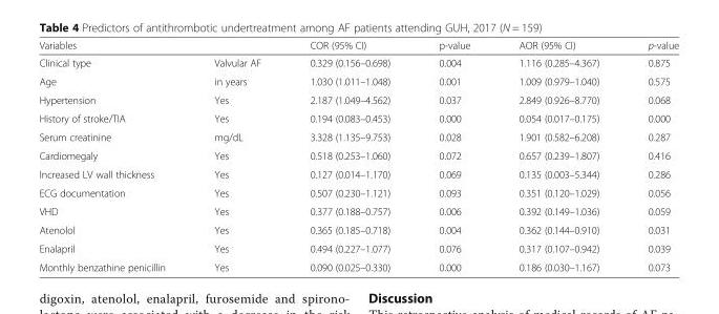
<table><thead><tr><td>Variables</td><td></td><td>COR (95% CI)</td><td>p-value</td><td>AOR (95% CI)</td><td>p-value</td></tr></thead><tbody><tr><td>Clinical type</td><td>Valvular AF</td><td>0.329 (0.156–0.698)</td><td>0.004</td><td>1.116 (0.285–4.367)</td><td>0.875</td></tr><tr><td>Age</td><td>in years</td><td>1.030 (1.011–1.048)</td><td>0.001</td><td>1.009 (0.979–1.040)</td><td>0.575</td></tr><tr><td>Hypertension</td><td>Yes</td><td>2.187 (1.049–4.562)</td><td>0.037</td><td>2.849 (0.926–8.770)</td><td>0.068</td></tr><tr><td>History of stroke/TIA</td><td>Yes</td><td>0.194 (0.083–0.453)</td><td>0.000</td><td>0.054 (0.017–0.175)</td><td>0.000</td></tr><tr><td>Serum creatinine</td><td>mg/dL</td><td>3.328 (1.135–9.753)</td><td>0.028</td><td>1.901 (0.582–6.208)</td><td>0.287</td></tr><tr><td>Cardiomegaly</td><td>Yes</td><td>0.518 (0.253–1.060)</td><td>0.072</td><td>0.657 (0.239–1.807)</td><td>0.416</td></tr><tr><td>Increased LV wall thickness</td><td>Yes</td><td>0.127 (0.014–1.170)</td><td>0.069</td><td>0.135 (0.003–5.344)</td><td>0.286</td></tr><tr><td>ECG documentation</td><td>Yes</td><td>0.507 (0.230–1.121)</td><td>0.093</td><td>0.351 (0.120–1.029)</td><td>0.056</td></tr><tr><td>VHD</td><td>Yes</td><td>0.377 (0.188–0.757)</td><td>0.006</td><td>0.392 (0.149–1.036)</td><td>0.059</td></tr><tr><td>Atenolol</td><td>Yes</td><td>0.365 (0.185–0.718)</td><td>0.004</td><td>0.362 (0.144–0.910)</td><td>0.031</td></tr><tr><td>Enalapril</td><td>Yes</td><td>0.494 (0.227–1.077)</td><td>0.076</td><td>0.317 (0.107–0.942)</td><td>0.039</td></tr><tr><td>Monthly benzathine penicillin</td><td>Yes</td><td>0.090 (0.025–0.330)</td><td>0.000</td><td>0.186 (0.030–1.167)</td><td>0.073</td></tr></tbody></table>